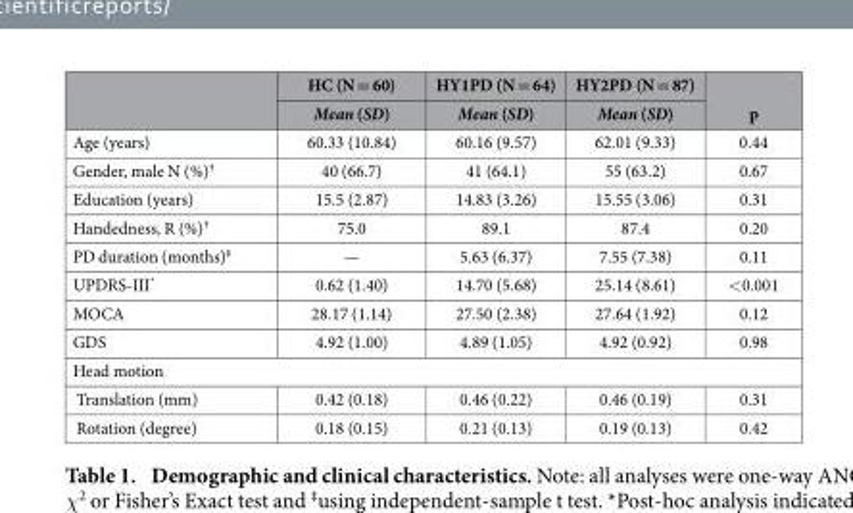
<table><thead><tr><td rowspan="2"></td><td rowspan="2">HC (N = 60) Mean (SD)</td><td rowspan="2">HY1PD (N = 64) Mean (SD)</td><td rowspan="2">HY2PD (N = 87) Mean (SD)</td><td rowspan="2">p</td></tr><tr></tr></thead><tbody><tr><td>Age (years)</td><td>60.33 (10.84)</td><td>60.16 (9.57)</td><td>62.01 (9.33)</td><td>0.44</td></tr><tr><td>Gender, male N (%)†</td><td>40 (66.7)</td><td>41 (64.1)</td><td>55 (63.2)</td><td>0.67</td></tr><tr><td>Education (years)</td><td>15.5 (2.87)</td><td>14.83 (3.26)</td><td>15.55 (3.06)</td><td>0.31</td></tr><tr><td>Handedness, R (%)†</td><td>75.0</td><td>89.1</td><td>87.4</td><td>0.20</td></tr><tr><td>PD duration (months)‡</td><td>—</td><td>5.63 (6.37)</td><td>7.55 (7.38)</td><td>0.11</td></tr><tr><td>UPDRS-III*</td><td>0.62 (1.40)</td><td>14.70 (5.68)</td><td>25.14 (8.61)</td><td>&lt; 0.001</td></tr><tr><td>MOCA</td><td>28.17 (1.14)</td><td>27.50 (2.38)</td><td>27.64 (1.92)</td><td>0.12</td></tr><tr><td>GDS</td><td>4.92 (1.00)</td><td>4.89 (1.05)</td><td>4.92 (0.92)</td><td>0.98</td></tr><tr><td colspan="5">Head motion</td></tr><tr><td>Translation (mm)</td><td>0.42 (0.18)</td><td>0.46 (0.22)</td><td>0.46 (0.19)</td><td>0.31</td></tr><tr><td>Rotation (degree)</td><td>0.18 (0.15)</td><td>0.21 (0.13)</td><td>0.19 (0.13)</td><td>0.42</td></tr></tbody></table>